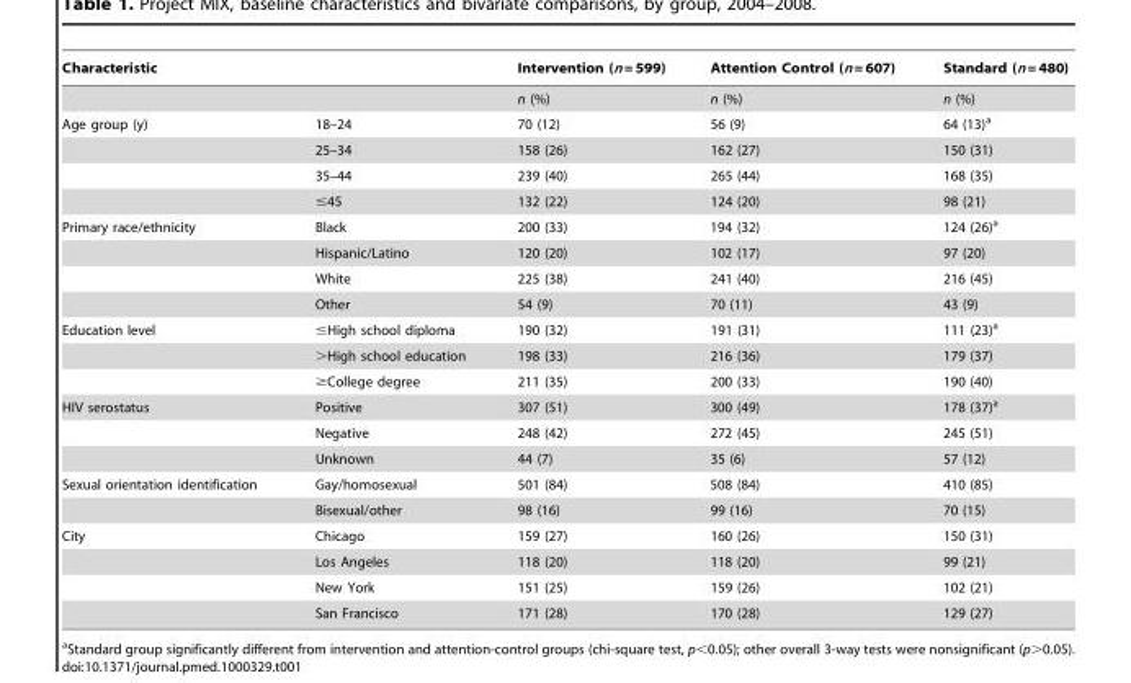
<table><thead><tr><td colspan="2">Characteristic</td><td rowspan="2">Intervention (n = 599) n (%)</td><td rowspan="2">Attention Control (n = 607) n (%)</td><td rowspan="2">Standard (n = 480) n (%)</td></tr><tr><td></td><td></td></tr></thead><tbody><tr><td rowspan="4">Age group (y)</td><td>18–24</td><td>70 (12)</td><td>56 (9)</td><td>64 (13)<sup>a</sup></td></tr><tr><td>25–34</td><td>158 (26)</td><td>162 (27)</td><td>150 (31)</td></tr><tr><td>35–44</td><td>239 (40)</td><td>265 (44)</td><td>168 (35)</td></tr><tr><td>≤45</td><td>132 (22)</td><td>124 (20)</td><td>98 (21)</td></tr><tr><td rowspan="4">Primary race/ethnicity</td><td>Black</td><td>200 (33)</td><td>194 (32)</td><td>124 (26)<sup>a</sup></td></tr><tr><td>Hispanic/Latino</td><td>120 (20)</td><td>102 (17)</td><td>97 (20)</td></tr><tr><td>White</td><td>225 (38)</td><td>241 (40)</td><td>216 (45)</td></tr><tr><td>Other</td><td>54 (9)</td><td>70 (11)</td><td>43 (9)</td></tr><tr><td rowspan="3">Education level</td><td>≤High school diploma</td><td>190 (32)</td><td>191 (31)</td><td>111 (23)<sup>a</sup></td></tr><tr><td>&gt;High school education</td><td>198 (33)</td><td>216 (36)</td><td>179 (37)</td></tr><tr><td>≥College degree</td><td>211 (35)</td><td>200 (33)</td><td>190 (40)</td></tr><tr><td rowspan="3">HIV serostatus</td><td>Positive</td><td>307 (51)</td><td>300 (49)</td><td>178 (37)<sup>a</sup></td></tr><tr><td>Negative</td><td>248 (42)</td><td>272 (45)</td><td>245 (51)</td></tr><tr><td>Unknown</td><td>44 (7)</td><td>35 (6)</td><td>57 (12)</td></tr><tr><td rowspan="2">Sexual orientation identification</td><td>Gay/homosexual</td><td>501 (84)</td><td>508 (84)</td><td>410 (85)</td></tr><tr><td>Bisexual/other</td><td>98 (16)</td><td>99 (16)</td><td>70 (15)</td></tr><tr><td rowspan="4">City</td><td>Chicago</td><td>159 (27)</td><td>160 (26)</td><td>150 (31)</td></tr><tr><td>Los Angeles</td><td>118 (20)</td><td>118 (20)</td><td>99 (21)</td></tr><tr><td>New York</td><td>151 (25)</td><td>159 (26)</td><td>102 (21)</td></tr><tr><td>San Francisco</td><td>171 (28)</td><td>170 (28)</td><td>129 (27)</td></tr></tbody></table>